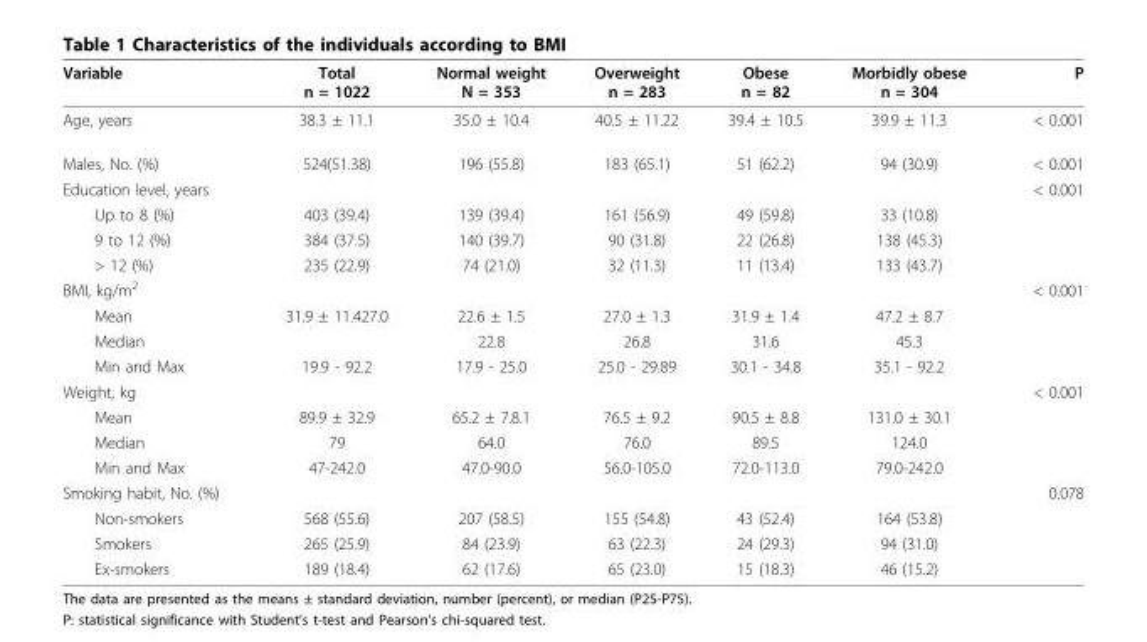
<table><thead><tr><td>Variable</td><td>Total n = 1022</td><td>Normal weight N = 353</td><td>Overweight n = 283</td><td>Obese n = 82</td><td>Morbidly obese n = 304</td><td>P</td></tr></thead><tbody><tr><td>Age, years</td><td>38.3 ± 11.1</td><td>35.0 ± 10.4</td><td>40.5 ± 11.22</td><td>39.4 ± 10.5</td><td>39.9 ± 11.3</td><td>&lt; 0.001</td></tr><tr><td>Males, No. (%)</td><td>524(51.38)</td><td>196 (55.8)</td><td>183 (65.1)</td><td>51 (62.2)</td><td>94 (30.9)</td><td>&lt; 0.001</td></tr><tr><td>Education level, years</td><td></td><td></td><td></td><td></td><td></td><td>&lt; 0.001</td></tr><tr><td>Up to 8 (%)</td><td>403 (39.4)</td><td>139 (39.4)</td><td>161 (56.9)</td><td>49 (59.8)</td><td>33 (10.8)</td><td></td></tr><tr><td>9 to 12 (%)</td><td>384 (37.5)</td><td>140 (39.7)</td><td>90 (31.8)</td><td>22 (26.8)</td><td>138 (45.3)</td><td></td></tr><tr><td>&gt; 12 (%)</td><td>235 (22.9)</td><td>74 (21.0)</td><td>32 (11.3)</td><td>11 (13.4)</td><td>133 (43.7)</td><td></td></tr><tr><td>BMI, kg/m<sup>2</sup></td><td></td><td></td><td></td><td></td><td></td><td>&lt; 0.001</td></tr><tr><td>Mean</td><td>31.9 ± 11.427.0</td><td>22.6 ± 1.5</td><td>27.0 ± 1.3</td><td>31.9 ± 1.4</td><td>47.2 ± 8.7</td><td></td></tr><tr><td>Median</td><td></td><td>22.8</td><td>26.8</td><td>31.6</td><td>45.3</td><td></td></tr><tr><td>Min and Max</td><td>19.9 - 92.2</td><td>17.9 - 25.0</td><td>25.0 - 29.89</td><td>30.1 - 34.8</td><td>35.1 - 92.2</td><td></td></tr><tr><td>Weight, kg</td><td></td><td></td><td></td><td></td><td></td><td>&lt; 0.001</td></tr><tr><td>Mean</td><td>89.9 ± 32.9</td><td>65.2 ± 7.8.1</td><td>76.5 ± 9.2</td><td>90.5 ± 8.8</td><td>131.0 ± 30.1</td><td></td></tr><tr><td>Median</td><td>79</td><td>64.0</td><td>76.0</td><td>89.5</td><td>124.0</td><td></td></tr><tr><td>Min and Max</td><td>47-242.0</td><td>47.0-90.0</td><td>56.0-105.0</td><td>72.0-113.0</td><td>79.0-242.0</td><td></td></tr><tr><td>Smoking habit, No. (%)</td><td></td><td></td><td></td><td></td><td></td><td>0.078</td></tr><tr><td>Non-smokers</td><td>568 (55.6)</td><td>207 (58.5)</td><td>155 (54.8)</td><td>43 (52.4)</td><td>164 (53.8)</td><td></td></tr><tr><td>Smokers</td><td>265 (25.9)</td><td>84 (23.9)</td><td>63 (22.3)</td><td>24 (29.3)</td><td>94 (31.0)</td><td></td></tr><tr><td>Ex-smokers</td><td>189 (18.4)</td><td>62 (17.6)</td><td>65 (23.0)</td><td>15 (18.3)</td><td>46 (15.2)</td><td></td></tr></tbody></table>